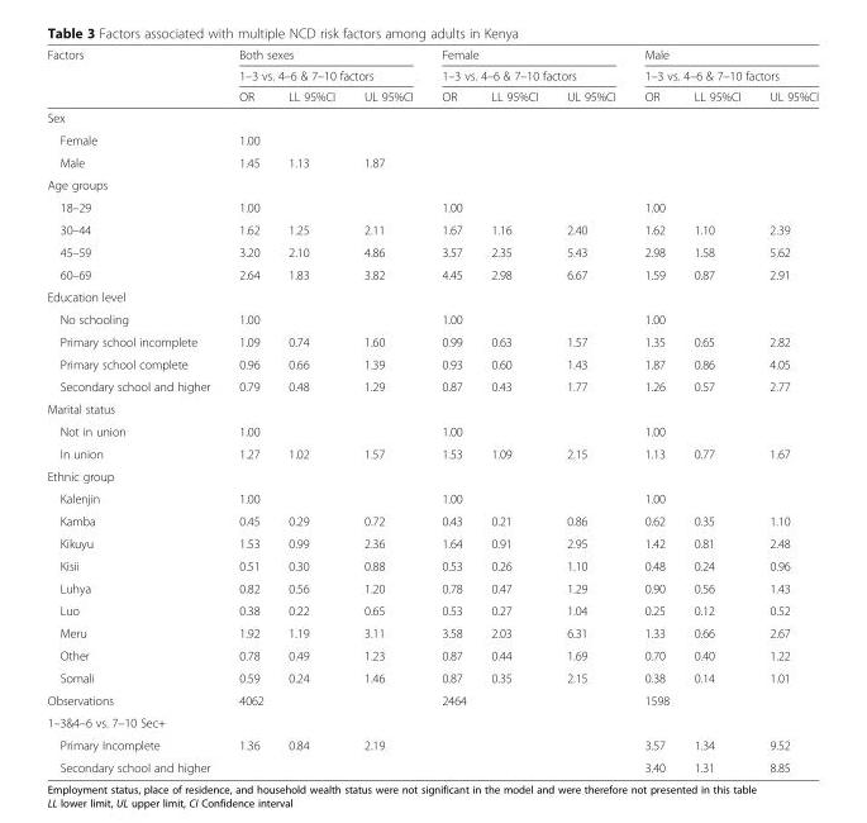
<table><thead><tr><td rowspan="3">Factors</td><td rowspan="2" colspan="3">Both sexes 1–3 vs. 4–6 &amp; 7–10 factors</td><td rowspan="2" colspan="3">Female 1–3 vs. 4–6 &amp; 7–10 factors</td><td rowspan="2" colspan="3">Male 1–3 vs. 4–6 &amp; 7–10 factors</td></tr><tr></tr><tr><td>OR</td><td>LL 95%CI</td><td>UL 95%CI</td><td>OR</td><td>LL 95%CI</td><td>UL 95%CI</td><td>OR</td><td>LL 95%CI</td><td>UL 95%CI</td></tr></thead><tbody><tr><td colspan="10">Sex</td></tr><tr><td>Female</td><td>1.00</td><td></td><td></td><td></td><td></td><td></td><td></td><td></td><td></td></tr><tr><td>Male</td><td>1.45</td><td>1.13</td><td>1.87</td><td></td><td></td><td></td><td></td><td></td><td></td></tr><tr><td colspan="10">Age groups</td></tr><tr><td>18–29</td><td>1.00</td><td></td><td></td><td>1.00</td><td></td><td></td><td>1.00</td><td></td><td></td></tr><tr><td>30–44</td><td>1.62</td><td>1.25</td><td>2.11</td><td>1.67</td><td>1.16</td><td>2.40</td><td>1.62</td><td>1.10</td><td>2.39</td></tr><tr><td>45–59</td><td>3.20</td><td>2.10</td><td>4.86</td><td>3.57</td><td>2.35</td><td>5.43</td><td>2.98</td><td>1.58</td><td>5.62</td></tr><tr><td>60–69</td><td>2.64</td><td>1.83</td><td>3.82</td><td>4.45</td><td>2.98</td><td>6.67</td><td>1.59</td><td>0.87</td><td>2.91</td></tr><tr><td colspan="10">Education level</td></tr><tr><td>No schooling</td><td>1.00</td><td></td><td></td><td>1.00</td><td></td><td></td><td>1.00</td><td></td><td></td></tr><tr><td>Primary school incomplete</td><td>1.09</td><td>0.74</td><td>1.60</td><td>0.99</td><td>0.63</td><td>1.57</td><td>1.35</td><td>0.65</td><td>2.82</td></tr><tr><td>Primary school complete</td><td>0.96</td><td>0.66</td><td>1.39</td><td>0.93</td><td>0.60</td><td>1.43</td><td>1.87</td><td>0.86</td><td>4.05</td></tr><tr><td>Secondary school and higher</td><td>0.79</td><td>0.48</td><td>1.29</td><td>0.87</td><td>0.43</td><td>1.77</td><td>1.26</td><td>0.57</td><td>2.77</td></tr><tr><td colspan="10">Marital status</td></tr><tr><td>Not in union</td><td>1.00</td><td></td><td></td><td>1.00</td><td></td><td></td><td>1.00</td><td></td><td></td></tr><tr><td>In union</td><td>1.27</td><td>1.02</td><td>1.57</td><td>1.53</td><td>1.09</td><td>2.15</td><td>1.13</td><td>0.77</td><td>1.67</td></tr><tr><td colspan="10">Ethnic group</td></tr><tr><td>Kalenjin</td><td>1.00</td><td></td><td></td><td>1.00</td><td></td><td></td><td>1.00</td><td></td><td></td></tr><tr><td>Kamba</td><td>0.45</td><td>0.29</td><td>0.72</td><td>0.43</td><td>0.21</td><td>0.86</td><td>0.62</td><td>0.35</td><td>1.10</td></tr><tr><td>Kikuyu</td><td>1.53</td><td>0.99</td><td>2.36</td><td>1.64</td><td>0.91</td><td>2.95</td><td>1.42</td><td>0.81</td><td>2.48</td></tr><tr><td>Kisii</td><td>0.51</td><td>0.30</td><td>0.88</td><td>0.53</td><td>0.26</td><td>1.10</td><td>0.48</td><td>0.24</td><td>0.96</td></tr><tr><td>Luhya</td><td>0.82</td><td>0.56</td><td>1.20</td><td>0.78</td><td>0.47</td><td>1.29</td><td>0.90</td><td>0.56</td><td>1.43</td></tr><tr><td>Luo</td><td>0.38</td><td>0.22</td><td>0.65</td><td>0.53</td><td>0.27</td><td>1.04</td><td>0.25</td><td>0.12</td><td>0.52</td></tr><tr><td>Meru</td><td>1.92</td><td>1.19</td><td>3.11</td><td>3.58</td><td>2.03</td><td>6.31</td><td>1.33</td><td>0.66</td><td>2.67</td></tr><tr><td>Other</td><td>0.78</td><td>0.49</td><td>1.23</td><td>0.87</td><td>0.44</td><td>1.69</td><td>0.70</td><td>0.40</td><td>1.22</td></tr><tr><td>Somali</td><td>0.59</td><td>0.24</td><td>1.46</td><td>0.87</td><td>0.35</td><td>2.15</td><td>0.38</td><td>0.14</td><td>1.01</td></tr><tr><td>Observations</td><td colspan="3">4062</td><td colspan="3">2464</td><td colspan="3">1598</td></tr><tr><td colspan="10">1–3&amp;4–6 vs. 7–10 Sec+</td></tr><tr><td>Primary Incomplete</td><td>1.36</td><td>0.84</td><td>2.19</td><td></td><td></td><td></td><td>3.57</td><td>1.34</td><td>9.52</td></tr><tr><td>Secondary school and higher</td><td></td><td></td><td></td><td></td><td></td><td></td><td>3.40</td><td>1.31</td><td>8.85</td></tr></tbody></table>